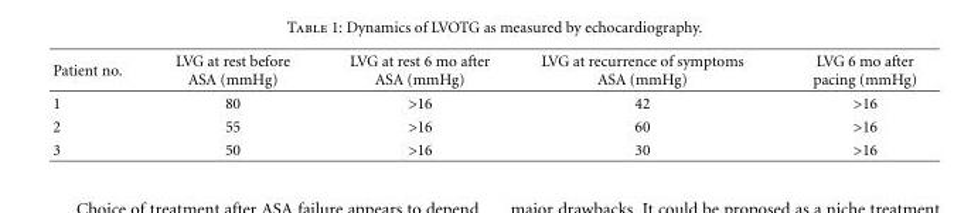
<table><thead><tr><td>Patient no.</td><td>LVG at rest before ASA (mmHg)</td><td>LVG at rest 6 mo after ASA (mmHg)</td><td>LVG at recurrence of symptoms ASA (mmHg)</td><td>LVG 6 mo after pacing (mmHg)</td></tr></thead><tbody><tr><td>1</td><td>80</td><td>&gt;16</td><td>42</td><td>&gt;16</td></tr><tr><td>2</td><td>55</td><td>&gt;16</td><td>60</td><td>&gt;16</td></tr><tr><td>3</td><td>50</td><td>&gt;16</td><td>30</td><td>&gt;16</td></tr></tbody></table>